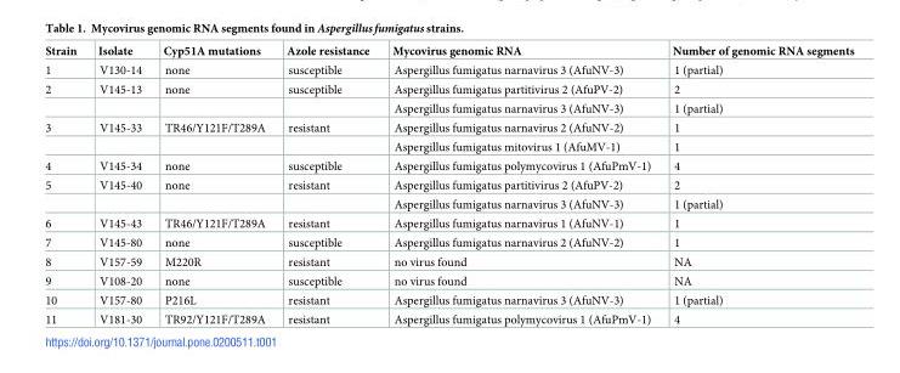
<table><thead><tr><td>Strain</td><td>Isolate</td><td>Cyp51A mutations</td><td>Azole resistance</td><td>Mycovirus genomic RNA</td><td>Number of genomic RNA segments</td></tr></thead><tbody><tr><td>1</td><td>V130-14</td><td>none</td><td>susceptible</td><td>Aspergillus fumigatus narnavirus 3 (AfuNV-3)</td><td>1 (partial)</td></tr><tr><td rowspan="2">2</td><td>V145-13</td><td>none</td><td>susceptible</td><td>Aspergillus fumigatus partitivirus 2 (AfuPV-2)</td><td>2</td></tr><tr><td></td><td></td><td></td><td>Aspergillus fumigatus narnavirus 3 (AfuNV-3)</td><td>1 (partial)</td></tr><tr><td rowspan="2">3</td><td>V145-33</td><td>TR46/Y121F/T289A</td><td>resistant</td><td>Aspergillus fumigatus narnavirus 2 (AfuNV-2)</td><td>1</td></tr><tr><td></td><td></td><td></td><td>Aspergillus fumigatus mitovirus 1 (AfuMV-1)</td><td>1</td></tr><tr><td>4</td><td>V145-34</td><td>none</td><td>susceptible</td><td>Aspergillus fumigatus polymycovirus 1 (AfuPmV-1)</td><td>4</td></tr><tr><td rowspan="2">5</td><td>V145-40</td><td>none</td><td>resistant</td><td>Aspergillus fumigatus partitivirus 2 (AfuPV-2)</td><td>2</td></tr><tr><td></td><td></td><td></td><td>Aspergillus fumigatus narnavirus 3 (AfuNV-3)</td><td>1 (partial)</td></tr><tr><td>6</td><td>V145-43</td><td>TR46/Y121F/T289A</td><td>resistant</td><td>Aspergillus fumigatus narnavirus 1 (AfuNV-1)</td><td>1</td></tr><tr><td>7</td><td>V145-80</td><td>none</td><td>susceptible</td><td>Aspergillus fumigatus narnavirus 2 (AfuNV-2)</td><td>1</td></tr><tr><td>8</td><td>V157-59</td><td>M220R</td><td>resistant</td><td>no virus found</td><td>NA</td></tr><tr><td>9</td><td>V108-20</td><td>none</td><td>susceptible</td><td>no virus found</td><td>NA</td></tr><tr><td>10</td><td>V157-80</td><td>P216L</td><td>resistant</td><td>Aspergillus fumigatus narnavirus 3 (AfuNV-3)</td><td>1 (partial)</td></tr><tr><td>11</td><td>V181-30</td><td>TR92/Y121F/T289A</td><td>resistant</td><td>Aspergillus fumigatus polymycovirus 1 (AfuPmV-1)</td><td>4</td></tr></tbody></table>